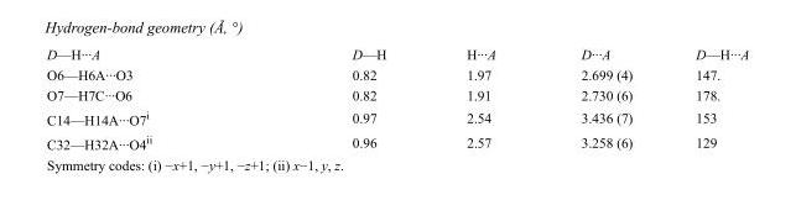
<table><tbody><tr><td>D—H···A</td><td>D—H</td><td>H···A</td><td>D···A</td><td>D—H···A</td></tr><tr><td>O6—H6A···O3</td><td>0.82</td><td>1.97</td><td>2.699 (4)</td><td>147.</td></tr><tr><td>O7—H7C···O6</td><td>0.82</td><td>1.91</td><td>2.730 (6)</td><td>178.</td></tr><tr><td>C14—H14A···O7<sup>i</sup></td><td>0.97</td><td>2.54</td><td>3.436 (7)</td><td>153</td></tr><tr><td>C32—H32A···O4<sup>ii</sup></td><td>0.96</td><td>2.57</td><td>3.258 (6)</td><td>129</td></tr></tbody></table>